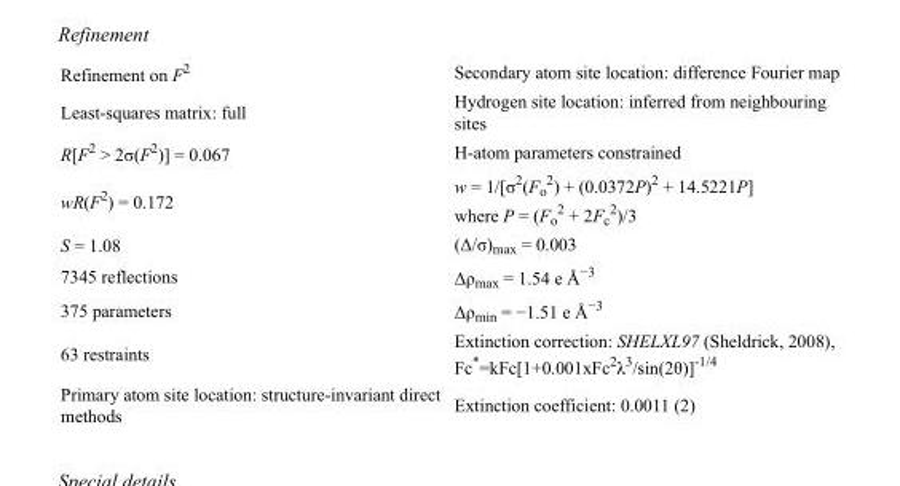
<table><tbody><tr><td>Refinement on F<sup>2</sup></td><td>Secondary atom site location: difference Fourier map</td></tr><tr><td>Least-squares matrix: full</td><td>Hydrogen site location: inferred from neighbouring sites</td></tr><tr><td>R[F<sup>2</sup> &gt; 2σ(F<sup>2</sup>)] = 0.067</td><td>H-atom parameters constrained</td></tr><tr><td>wR(F<sup>2</sup>) = 0.172</td><td>w = 1/[σ<sup>2</sup>(F<sub>o</sub> <sup>2</sup>) + (0.0372P)<sup>2</sup> + 14.5221P] where P = (F<sub>o</sub> <sup>2</sup> + 2F<sub>c</sub> <sup>2</sup>)/3</td></tr><tr><td>S = 1.08</td><td>(Δ/σ)<sub>max</sub> = 0.003</td></tr><tr><td>7345 reflections</td><td>Δρ<sub>max</sub> = 1.54 e Å<sup>−3</sup></td></tr><tr><td>375 parameters</td><td>Δρ<sub>min</sub> = −1.51 e Å<sup>−3</sup></td></tr><tr><td>63 restraints</td><td>Extinction correction: SHELXL97 (Sheldrick, 2008), Fc*=kFc[1+0.001xFc<sup>2</sup>λ<sup>3</sup>/sin(2θ)]<sup>-1/4</sup></td></tr><tr><td>Primary atom site location: structure-invariant direct methods</td><td>Extinction coefficient: 0.0011 (2)</td></tr></tbody></table>